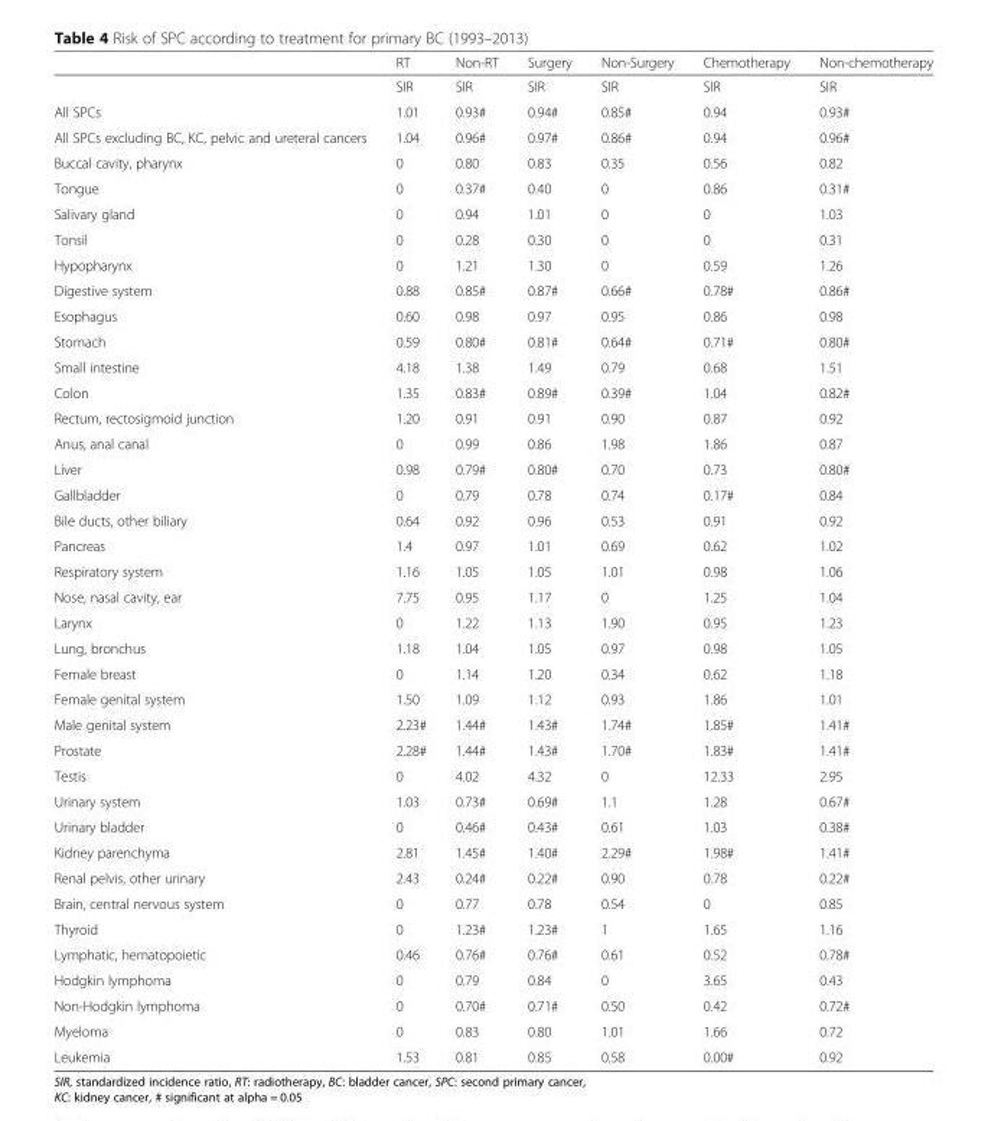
<table><thead><tr><td></td><td>RT</td><td>Non-RT</td><td>Surgery</td><td>Non-Surgery</td><td>Chemotherapy</td><td>Non-chemotherapy</td></tr></thead><tbody><tr><td></td><td>SIR</td><td>SIR</td><td>SIR</td><td>SIR</td><td>SIR</td><td>SIR</td></tr><tr><td>All SPCs</td><td>1.01</td><td>0.93#</td><td>0.94#</td><td>0.85#</td><td>0.94</td><td>0.93#</td></tr><tr><td>All SPCs excluding BC, KC, pelvic and ureteral cancers</td><td>1.04</td><td>0.96#</td><td>0.97#</td><td>0.86#</td><td>0.94</td><td>0.96#</td></tr><tr><td>Buccal cavity, pharynx</td><td>0</td><td>0.80</td><td>0.83</td><td>0.35</td><td>0.56</td><td>0.82</td></tr><tr><td>Tongue</td><td>0</td><td>0.37#</td><td>0.40</td><td>0</td><td>0.86</td><td>0.31#</td></tr><tr><td>Salivary gland</td><td>0</td><td>0.94</td><td>1.01</td><td>0</td><td>0</td><td>1.03</td></tr><tr><td>Tonsil</td><td>0</td><td>0.28</td><td>0.30</td><td>0</td><td>0</td><td>0.31</td></tr><tr><td>Hypopharynx</td><td>0</td><td>1.21</td><td>1.30</td><td>0</td><td>0.59</td><td>1.26</td></tr><tr><td>Digestive system</td><td>0.88</td><td>0.85#</td><td>0.87#</td><td>0.66#</td><td>0.78#</td><td>0.86#</td></tr><tr><td>Esophagus</td><td>0.60</td><td>0.98</td><td>0.97</td><td>0.95</td><td>0.86</td><td>0.98</td></tr><tr><td>Stomach</td><td>0.59</td><td>0.80#</td><td>0.81#</td><td>0.64#</td><td>0.71#</td><td>0.80#</td></tr><tr><td>Small intestine</td><td>4.18</td><td>1.38</td><td>1.49</td><td>0.79</td><td>0.68</td><td>1.51</td></tr><tr><td>Colon</td><td>1.35</td><td>0.83#</td><td>0.89#</td><td>0.39#</td><td>1.04</td><td>0.82#</td></tr><tr><td>Rectum, rectosigmoid junction</td><td>1.20</td><td>0.91</td><td>0.91</td><td>0.90</td><td>0.87</td><td>0.92</td></tr><tr><td>Anus, anal canal</td><td>0</td><td>0.99</td><td>0.86</td><td>1.98</td><td>1.86</td><td>0.87</td></tr><tr><td>Liver</td><td>0.98</td><td>0.79#</td><td>0.80#</td><td>0.70</td><td>0.73</td><td>0.80#</td></tr><tr><td>Gallbladder</td><td>0</td><td>0.79</td><td>0.78</td><td>0.74</td><td>0.17#</td><td>0.84</td></tr><tr><td>Bile ducts, other biliary</td><td>0.64</td><td>0.92</td><td>0.96</td><td>0.53</td><td>0.91</td><td>0.92</td></tr><tr><td>Pancreas</td><td>1.4</td><td>0.97</td><td>1.01</td><td>0.69</td><td>0.62</td><td>1.02</td></tr><tr><td>Respiratory system</td><td>1.16</td><td>1.05</td><td>1.05</td><td>1.01</td><td>0.98</td><td>1.06</td></tr><tr><td>Nose, nasal cavity, ear</td><td>7.75</td><td>0.95</td><td>1.17</td><td>0</td><td>1.25</td><td>1.04</td></tr><tr><td>Larynx</td><td>0</td><td>1.22</td><td>1.13</td><td>1.90</td><td>0.95</td><td>1.23</td></tr><tr><td>Lung, bronchus</td><td>1.18</td><td>1.04</td><td>1.05</td><td>0.97</td><td>0.98</td><td>1.05</td></tr><tr><td>Female breast</td><td>0</td><td>1.14</td><td>1.20</td><td>0.34</td><td>0.62</td><td>1.18</td></tr><tr><td>Female genital system</td><td>1.50</td><td>1.09</td><td>1.12</td><td>0.93</td><td>1.86</td><td>1.01</td></tr><tr><td>Male genital system</td><td>2.23#</td><td>1.44#</td><td>1.43#</td><td>1.74#</td><td>1.85#</td><td>1.41#</td></tr><tr><td>Prostate</td><td>2.28#</td><td>1.44#</td><td>1.43#</td><td>1.70#</td><td>1.83#</td><td>1.41#</td></tr><tr><td>Testis</td><td>0</td><td>4.02</td><td>4.32</td><td>0</td><td>12.33</td><td>2.95</td></tr><tr><td>Urinary system</td><td>1.03</td><td>0.73#</td><td>0.69#</td><td>1.1</td><td>1.28</td><td>0.67#</td></tr><tr><td>Urinary bladder</td><td>0</td><td>0.46#</td><td>0.43#</td><td>0.61</td><td>1.03</td><td>0.38#</td></tr><tr><td>Kidney parenchyma</td><td>2.81</td><td>1.45#</td><td>1.40#</td><td>2.29#</td><td>1.98#</td><td>1.41#</td></tr><tr><td>Renal pelvis, other urinary</td><td>2.43</td><td>0.24#</td><td>0.22#</td><td>0.90</td><td>0.78</td><td>0.22#</td></tr><tr><td>Brain, central nervous system</td><td>0</td><td>0.77</td><td>0.78</td><td>0.54</td><td>0</td><td>0.85</td></tr><tr><td>Thyroid</td><td>0</td><td>1.23#</td><td>1.23#</td><td>1</td><td>1.65</td><td>1.16</td></tr><tr><td>Lymphatic, hematopoietic</td><td>0.46</td><td>0.76#</td><td>0.76#</td><td>0.61</td><td>0.52</td><td>0.78#</td></tr><tr><td>Hodgkin lymphoma</td><td>0</td><td>0.79</td><td>0.84</td><td>0</td><td>3.65</td><td>0.43</td></tr><tr><td>Non-Hodgkin lymphoma</td><td>0</td><td>0.70#</td><td>0.71#</td><td>0.50</td><td>0.42</td><td>0.72#</td></tr><tr><td>Myeloma</td><td>0</td><td>0.83</td><td>0.80</td><td>1.01</td><td>1.66</td><td>0.72</td></tr><tr><td>Leukemia</td><td>1.53</td><td>0.81</td><td>0.85</td><td>0.58</td><td>0.00#</td><td>0.92</td></tr></tbody></table>